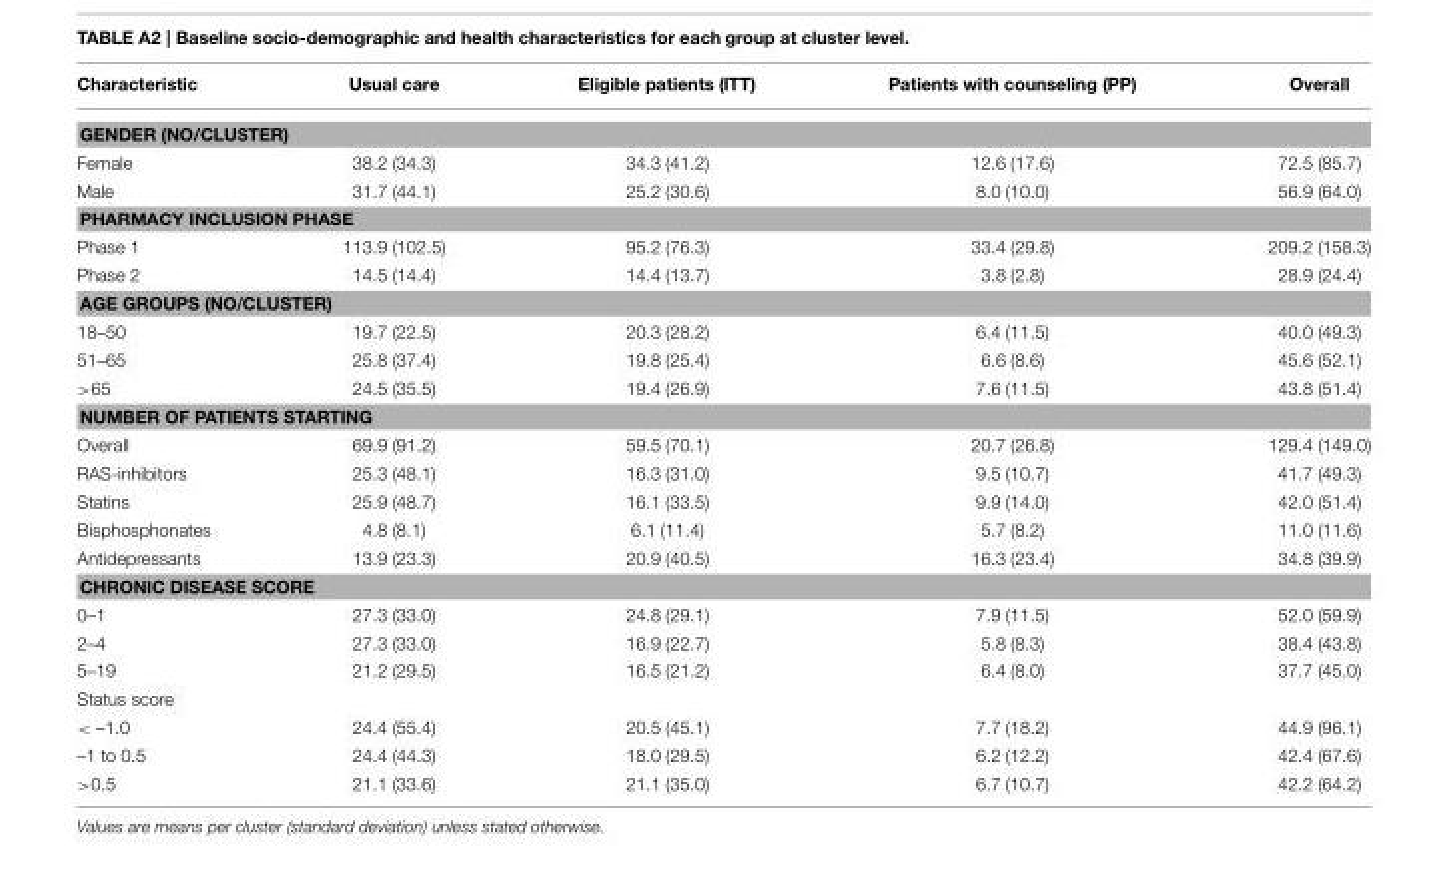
<table><thead><tr><td>Characteristic</td><td>Usual care</td><td>Eligible patients (ITT)</td><td>Patients with counseling (PP)</td><td>Overall</td></tr></thead><tbody><tr><td colspan="5">GENDER (NO/CLUSTER)</td></tr><tr><td>Female</td><td>38.2 (34.3)</td><td>34.3 (41.2)</td><td>12.6 (17.6)</td><td>72.5 (85.7)</td></tr><tr><td>Male</td><td>31.7 (44.1)</td><td>25.2 (30.6)</td><td>8.0 (10.0)</td><td>56.9 (64.0)</td></tr><tr><td colspan="5">PHARMACY INCLUSION PHASE</td></tr><tr><td>Phase 1</td><td>113.9 (102.5)</td><td>95.2 (76.3)</td><td>33.4 (29.8)</td><td>209.2 (158.3)</td></tr><tr><td>Phase 2</td><td>14.5 (14.4)</td><td>14.4 (13.7)</td><td>3.8 (2.8)</td><td>28.9 (24.4)</td></tr><tr><td colspan="5">AGE GROUPS (NO/CLUSTER)</td></tr><tr><td>18–50</td><td>19.7 (22.5)</td><td>20.3 (28.2)</td><td>6.4 (11.5)</td><td>40.0 (49.3)</td></tr><tr><td>51–65</td><td>25.8 (37.4)</td><td>19.8 (25.4)</td><td>6.6 (8.6)</td><td>45.6 (52.1)</td></tr><tr><td>&gt;65</td><td>24.5 (35.5)</td><td>19.4 (26.9)</td><td>7.6 (11.5)</td><td>43.8 (51.4)</td></tr><tr><td colspan="5">NUMBER OF PATIENTS STARTING</td></tr><tr><td>Overall</td><td>69.9 (91.2)</td><td>59.5 (70.1)</td><td>20.7 (26.8)</td><td>129.4 (149.0)</td></tr><tr><td>RAS-inhibitors</td><td>25.3 (48.1)</td><td>16.3 (31.0)</td><td>9.5 (10.7)</td><td>41.7 (49.3)</td></tr><tr><td>Statins</td><td>25.9 (48.7)</td><td>16.1 (33.5)</td><td>9.9 (14.0)</td><td>42.0 (51.4)</td></tr><tr><td>Bisphosphonates</td><td>4.8 (8.1)</td><td>6.1 (11.4)</td><td>5.7 (8.2)</td><td>11.0 (11.6)</td></tr><tr><td>Antidepressants</td><td>13.9 (23.3)</td><td>20.9 (40.5)</td><td>16.3 (23.4)</td><td>34.8 (39.9)</td></tr><tr><td colspan="5">CHRONIC DISEASE SCORE</td></tr><tr><td>0–1</td><td>27.3 (33.0)</td><td>24.8 (29.1)</td><td>7.9 (11.5)</td><td>52.0 (59.9)</td></tr><tr><td>2–4</td><td>27.3 (33.0)</td><td>16.9 (22.7)</td><td>5.8 (8.3)</td><td>38.4 (43.8)</td></tr><tr><td>5–19</td><td>21.2 (29.5)</td><td>16.5 (21.2)</td><td>6.4 (8.0)</td><td>37.7 (45.0)</td></tr><tr><td colspan="5">Status score</td></tr><tr><td>&lt; –1.0</td><td>24.4 (55.4)</td><td>20.5 (45.1)</td><td>7.7 (18.2)</td><td>44.9 (96.1)</td></tr><tr><td>–1 to 0.5</td><td>24.4 (44.3)</td><td>18.0 (29.5)</td><td>6.2 (12.2)</td><td>42.4 (67.6)</td></tr><tr><td>&gt;0.5</td><td>21.1 (33.6)</td><td>21.1 (35.0)</td><td>6.7 (10.7)</td><td>42.2 (64.2)</td></tr></tbody></table>